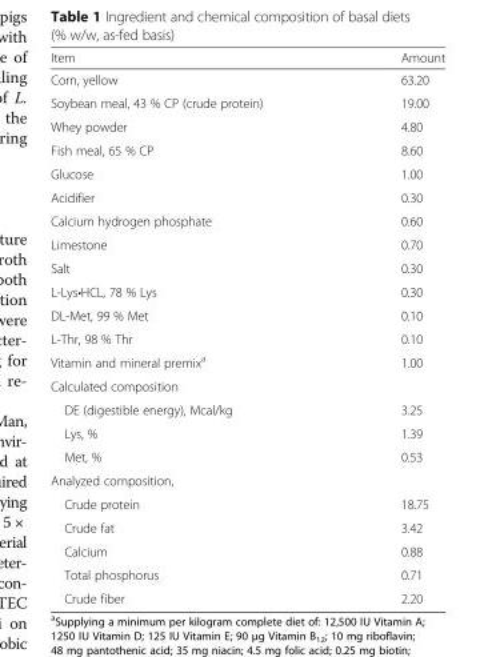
<table><thead><tr><td>Item</td><td>Amount</td></tr></thead><tbody><tr><td>Corn, yellow</td><td>63.20</td></tr><tr><td>Soybean meal, 43 % CP (crude protein)</td><td>19.00</td></tr><tr><td>Whey powder</td><td>4.80</td></tr><tr><td>Fish meal, 65 % CP</td><td>8.60</td></tr><tr><td>Glucose</td><td>1.00</td></tr><tr><td>Acidifier</td><td>0.30</td></tr><tr><td>Calcium hydrogen phosphate</td><td>0.60</td></tr><tr><td>Limestone</td><td>0.70</td></tr><tr><td>Salt</td><td>0.30</td></tr><tr><td>L-Lys•HCL, 78 % Lys</td><td>0.30</td></tr><tr><td>DL-Met, 99 % Met</td><td>0.10</td></tr><tr><td>L-Thr, 98 % Thr</td><td>0.10</td></tr><tr><td>Vitamin and mineral premix<sup>a</sup></td><td>1.00</td></tr><tr><td colspan="2">Calculated composition</td></tr><tr><td>DE (digestible energy), Mcal/kg</td><td>3.25</td></tr><tr><td>Lys, %</td><td>1.39</td></tr><tr><td>Met, %</td><td>0.53</td></tr><tr><td colspan="2">Analyzed composition,</td></tr><tr><td>Crude protein</td><td>18.75</td></tr><tr><td>Crude fat</td><td>3.42</td></tr><tr><td>Calcium</td><td>0.88</td></tr><tr><td>Total phosphorus</td><td>0.71</td></tr><tr><td>Crude fiber</td><td>2.20</td></tr></tbody></table>